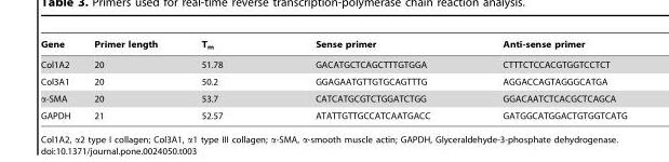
<table><thead><tr><td>Gene</td><td>Primer length</td><td>T<sub>m</sub></td><td>Sense primer</td><td>Anti-sense primer</td></tr></thead><tbody><tr><td>Col1A2</td><td>20</td><td>51.78</td><td>GACATGCTCAGCTTTGTGGA</td><td>CTTTCTCCACGTGGTCCTCT</td></tr><tr><td>Col3A1</td><td>20</td><td>50.2</td><td>GGAGAATGTTGTGCAGTTTG</td><td>AGGACCAGTAGGGCATGA</td></tr><tr><td>α-SMA</td><td>20</td><td>53.7</td><td>CATCATGCGTCTGGATCTGG</td><td>GGACAATCTCACGCTCAGCA</td></tr><tr><td>GAPDH</td><td>21</td><td>52.57</td><td>ATATTGTTGCCATCAATGACC</td><td>GATGGCATGGACTGTGGTCATG</td></tr></tbody></table>